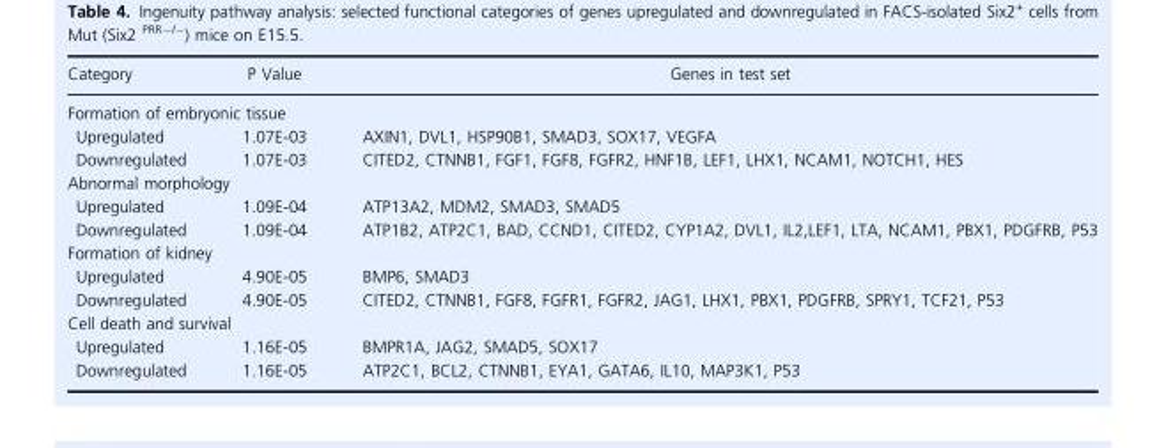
<table><thead><tr><td>Category</td><td>P Value</td><td>Genes in test set</td></tr></thead><tbody><tr><td colspan="3">Formation of embryonic tissue</td></tr><tr><td>Upregulated</td><td>1.07E-03</td><td>AXIN1, DVL1, HSP90B1, SMAD3, SOX17, VEGFA</td></tr><tr><td>Downregulated</td><td>1.07E-03</td><td>CITED2, CTNNB1, FGF1, FGF8, FGFR2, HNF1B, LEF1, LHX1, NCAM1, NOTCH1, HES</td></tr><tr><td colspan="3">Abnormal morphology</td></tr><tr><td>Upregulated</td><td>1.09E-04</td><td>ATP13A2, MDM2, SMAD3, SMAD5</td></tr><tr><td>Downregulated</td><td>1.09E-04</td><td>ATP1B2, ATP2C1, BAD, CCND1, CITED2, CYP1A2, DVL1, IL2,LEF1, LTA, NCAM1, PBX1, PDGFRB, P53</td></tr><tr><td colspan="3">Formation of kidney</td></tr><tr><td>Upregulated</td><td>4.90E-05</td><td>BMP6, SMAD3</td></tr><tr><td>Downregulated</td><td>4.90E-05</td><td>CITED2, CTNNB1, FGF8, FGFR1, FGFR2, JAG1, LHX1, PBX1, PDGFRB, SPRY1, TCF21, P53</td></tr><tr><td colspan="3">Cell death and survival</td></tr><tr><td>Upregulated</td><td>1.16E-05</td><td>BMPR1A, JAG2, SMAD5, SOX17</td></tr><tr><td>Downregulated</td><td>1.16E-05</td><td>ATP2C1, BCL2, CTNNB1, EYA1, GATA6, IL10, MAP3K1, P53</td></tr></tbody></table>